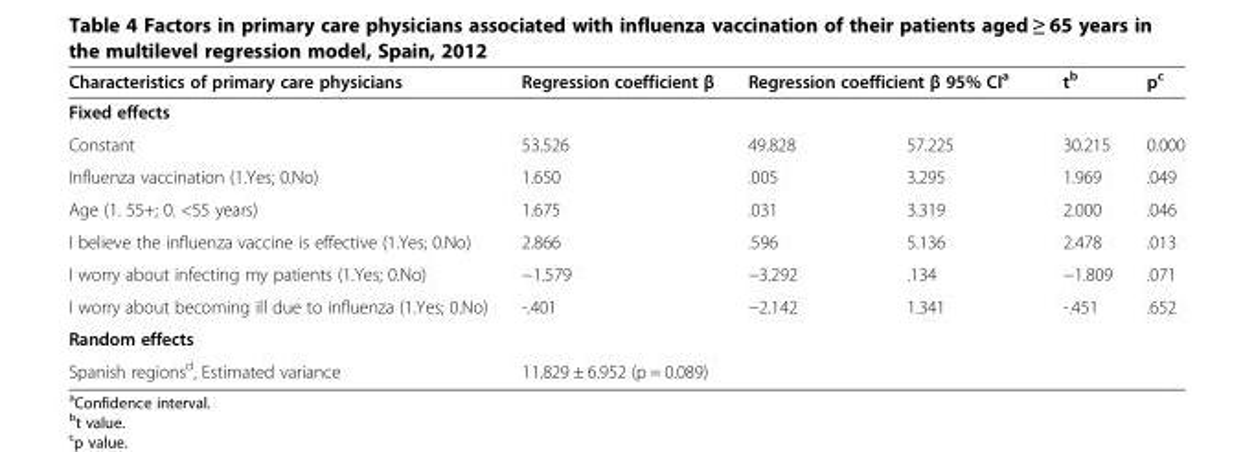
<table><thead><tr><td rowspan="2">Characteristics of primary care physicians Fixed effects</td><td rowspan="2">Regression coefficient β</td><td colspan="2">Regression coefficient β 95% CI<sup>a</sup></td><td rowspan="2">t<sup>b</sup></td><td rowspan="2">p<sup>c</sup></td></tr><tr><td></td><td></td></tr></thead><tbody><tr><td>Constant</td><td>53.526</td><td>49.828</td><td>57.225</td><td>30.215</td><td>0.000</td></tr><tr><td>Influenza vaccination (1.Yes; 0.No)</td><td>1.650</td><td>.005</td><td>3.295</td><td>1.969</td><td>.049</td></tr><tr><td>Age (1. 55+; 0. &lt;55 years)</td><td>1.675</td><td>.031</td><td>3.319</td><td>2.000</td><td>.046</td></tr><tr><td>I believe the influenza vaccine is effective (1.Yes; 0.No)</td><td>2.866</td><td>.596</td><td>5.136</td><td>2.478</td><td>.013</td></tr><tr><td>I worry about infecting my patients (1.Yes; 0.No)</td><td>−1.579</td><td>−3.292</td><td>.134</td><td>−1.809</td><td>.071</td></tr><tr><td>I worry about becoming ill due to influenza (1.Yes; 0.No)</td><td>-.401</td><td>−2.142</td><td>1.341</td><td>-.451</td><td>.652</td></tr><tr><td colspan="6">Random effects</td></tr><tr><td>Spanish regions<sup>d</sup>, Estimated variance</td><td colspan="5">11.829 ± 6.952 (p = 0.089)</td></tr></tbody></table>